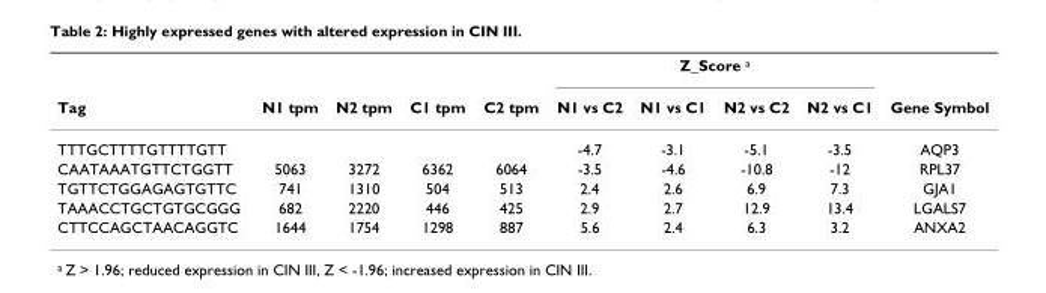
<table><thead><tr><td rowspan="2">Tag</td><td rowspan="2">N1 tpm</td><td rowspan="2">N2 tpm</td><td rowspan="2">C1 tpm</td><td rowspan="2">C2 tpm</td><td colspan="4">Z_Score <sup>a</sup></td><td rowspan="2">Gene Symbol</td></tr><tr><td>N1 vs C2</td><td>N1 vs C1</td><td>N2 vs C2</td><td>N2 vs C1</td></tr></thead><tbody><tr><td>TTTGCTTTTGTTTTGTT</td><td></td><td></td><td></td><td></td><td>-4.7</td><td>-3.1</td><td>-5.1</td><td>-3.5</td><td>AQP3</td></tr><tr><td>CAATAAATGTTCTGGTT</td><td>5063</td><td>3272</td><td>6362</td><td>6064</td><td>-3.5</td><td>-4.6</td><td>-10.8</td><td>-12</td><td>RPL37</td></tr><tr><td>TGTTCTGGAGAGTGTTC</td><td>741</td><td>1310</td><td>504</td><td>513</td><td>2.4</td><td>2.6</td><td>6.9</td><td>7.3</td><td>GJA1</td></tr><tr><td>TAAACCTGCTGTGCGGG</td><td>682</td><td>2220</td><td>446</td><td>425</td><td>2.9</td><td>2.7</td><td>12.9</td><td>13.4</td><td>LGALS7</td></tr><tr><td>CTTCCAGCTAACAGGTC</td><td>1644</td><td>1754</td><td>1298</td><td>887</td><td>5.6</td><td>2.4</td><td>6.3</td><td>3.2</td><td>ANXA2</td></tr></tbody></table>